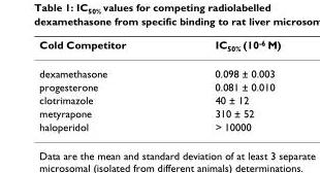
<table><thead><tr><td>Cold Competitor</td><td>IC<sub>50%</sub> (10<sup>-6</sup> M)</td></tr></thead><tbody><tr><td>dexamethasone</td><td>0.098 ± 0.003</td></tr><tr><td>progesterone</td><td>0.081 ± 0.010</td></tr><tr><td>clotrimazole</td><td>40 ± 12</td></tr><tr><td>metyrapone</td><td>310 ± 52</td></tr><tr><td>haloperidol</td><td>&gt; 10000</td></tr></tbody></table>